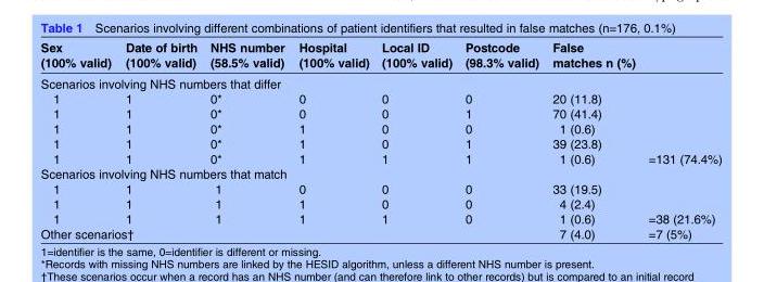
<table><thead><tr><td>Sex (100% valid)</td><td>Date of birth (100% valid)</td><td>NHS number (58.5% valid)</td><td>Hospital (100% valid)</td><td>Local ID (100% valid)</td><td>Postcode (98.3% valid)</td><td>False matches n (%)</td><td></td></tr></thead><tbody><tr><td colspan="8">Scenarios involving NHS numbers that differ</td></tr><tr><td>1</td><td>1</td><td>0*</td><td>0</td><td>0</td><td>0</td><td>20 (11.8)</td><td></td></tr><tr><td>1</td><td>1</td><td>0*</td><td>0</td><td>0</td><td>1</td><td>70 (41.4)</td><td></td></tr><tr><td>1</td><td>1</td><td>0*</td><td>1</td><td>0</td><td>0</td><td>1 (0.6)</td><td></td></tr><tr><td>1</td><td>1</td><td>0*</td><td>1</td><td>0</td><td>1</td><td>39 (23.8)</td><td></td></tr><tr><td>1</td><td>1</td><td>0*</td><td>1</td><td>1</td><td>1</td><td>1 (0.6)</td><td>=131 (74.4%)</td></tr><tr><td colspan="8">Scenarios involving NHS numbers that match</td></tr><tr><td>1</td><td>1</td><td>1</td><td>0</td><td>0</td><td>0</td><td>33 (19.5)</td><td></td></tr><tr><td>1</td><td>1</td><td>1</td><td>1</td><td>0</td><td>0</td><td>4 (2.4)</td><td></td></tr><tr><td>1</td><td>1</td><td>1</td><td>1</td><td>1</td><td>0</td><td>1 (0.6)</td><td>=38 (21.6%)</td></tr><tr><td colspan="6">Other scenarios†</td><td>7 (4.0)</td><td>=7 (5%)</td></tr></tbody></table>